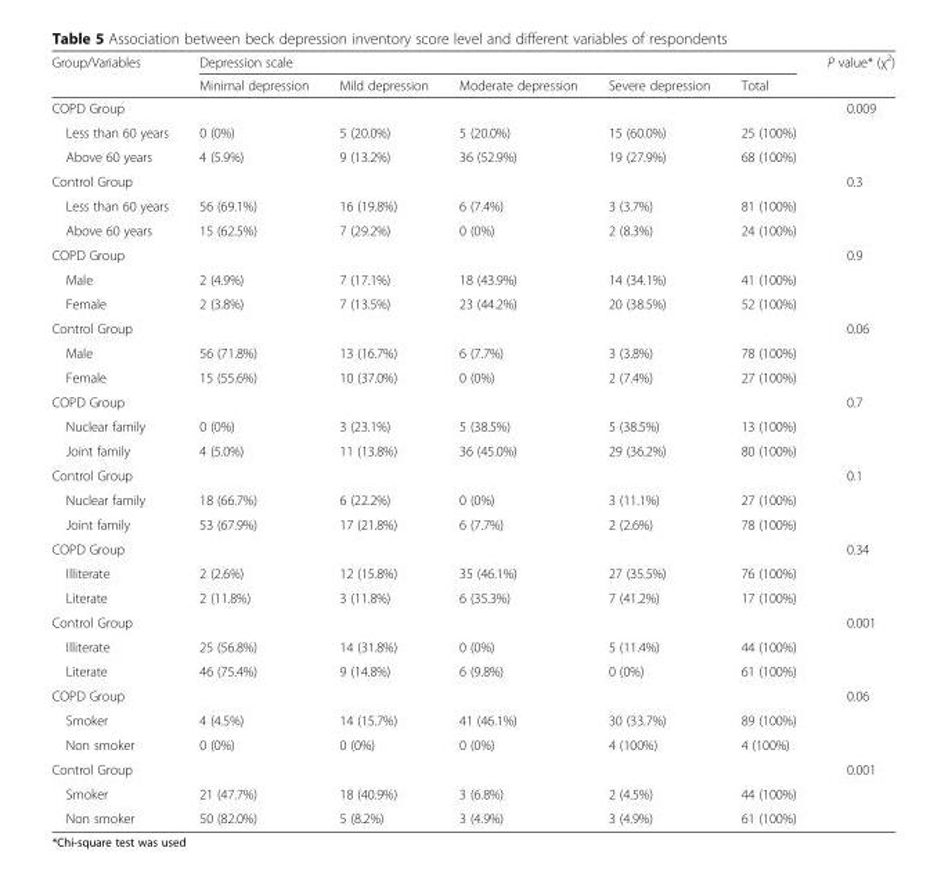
<table><thead><tr><td rowspan="2">Group/Variables</td><td colspan="5">Depression scale</td><td rowspan="2">P value* (χ<sup>2</sup>)</td></tr><tr><td>Minimal depression</td><td>Mild depression</td><td>Moderate depression</td><td>Severe depression</td><td>Total</td></tr></thead><tbody><tr><td colspan="6">COPD Group</td><td rowspan="3">0.009</td></tr><tr><td>Less than 60 years</td><td>0 (0%)</td><td>5 (20.0%)</td><td>5 (20.0%)</td><td>15 (60.0%)</td><td>25 (100%)</td></tr><tr><td>Above 60 years</td><td>4 (5.9%)</td><td>9 (13.2%)</td><td>36 (52.9%)</td><td>19 (27.9%)</td><td>68 (100%)</td></tr><tr><td colspan="6">Control Group</td><td rowspan="3">0.3</td></tr><tr><td>Less than 60 years</td><td>56 (69.1%)</td><td>16 (19.8%)</td><td>6 (7.4%)</td><td>3 (3.7%)</td><td>81 (100%)</td></tr><tr><td>Above 60 years</td><td>15 (62.5%)</td><td>7 (29.2%)</td><td>0 (0%)</td><td>2 (8.3%)</td><td>24 (100%)</td></tr><tr><td colspan="6">COPD Group</td><td rowspan="3">0.9</td></tr><tr><td>Male</td><td>2 (4.9%)</td><td>7 (17.1%)</td><td>18 (43.9%)</td><td>14 (34.1%)</td><td>41 (100%)</td></tr><tr><td>Female</td><td>2 (3.8%)</td><td>7 (13.5%)</td><td>23 (44.2%)</td><td>20 (38.5%)</td><td>52 (100%)</td></tr><tr><td colspan="6">Control Group</td><td rowspan="3">0.06</td></tr><tr><td>Male</td><td>56 (71.8%)</td><td>13 (16.7%)</td><td>6 (7.7%)</td><td>3 (3.8%)</td><td>78 (100%)</td></tr><tr><td>Female</td><td>15 (55.6%)</td><td>10 (37.0%)</td><td>0 (0%)</td><td>2 (7.4%)</td><td>27 (100%)</td></tr><tr><td colspan="6">COPD Group</td><td rowspan="3">0.7</td></tr><tr><td>Nuclear family</td><td>0 (0%)</td><td>3 (23.1%)</td><td>5 (38.5%)</td><td>5 (38.5%)</td><td>13 (100%)</td></tr><tr><td>Joint family</td><td>4 (5.0%)</td><td>11 (13.8%)</td><td>36 (45.0%)</td><td>29 (36.2%)</td><td>80 (100%)</td></tr><tr><td colspan="6">Control Group</td><td rowspan="3">0.1</td></tr><tr><td>Nuclear family</td><td>18 (66.7%)</td><td>6 (22.2%)</td><td>0 (0%)</td><td>3 (11.1%)</td><td>27 (100%)</td></tr><tr><td>Joint family</td><td>53 (67.9%)</td><td>17 (21.8%)</td><td>6 (7.7%)</td><td>2 (2.6%)</td><td>78 (100%)</td></tr><tr><td colspan="6">COPD Group</td><td rowspan="3">0.34</td></tr><tr><td>Illiterate</td><td>2 (2.6%)</td><td>12 (15.8%)</td><td>35 (46.1%)</td><td>27 (35.5%)</td><td>76 (100%)</td></tr><tr><td>Literate</td><td>2 (11.8%)</td><td>3 (11.8%)</td><td>6 (35.3%)</td><td>7 (41.2%)</td><td>17 (100%)</td></tr><tr><td colspan="6">Control Group</td><td rowspan="3">0.001</td></tr><tr><td>Illiterate</td><td>25 (56.8%)</td><td>14 (31.8%)</td><td>0 (0%)</td><td>5 (11.4%)</td><td>44 (100%)</td></tr><tr><td>Literate</td><td>46 (75.4%)</td><td>9 (14.8%)</td><td>6 (9.8%)</td><td>0 (0%)</td><td>61 (100%)</td></tr><tr><td colspan="6">COPD Group</td><td rowspan="3">0.06</td></tr><tr><td>Smoker</td><td>4 (4.5%)</td><td>14 (15.7%)</td><td>41 (46.1%)</td><td>30 (33.7%)</td><td>89 (100%)</td></tr><tr><td>Non smoker</td><td>0 (0%)</td><td>0 (0%)</td><td>0 (0%)</td><td>4 (100%)</td><td>4 (100%)</td></tr><tr><td colspan="6">Control Group</td><td rowspan="3">0.001</td></tr><tr><td>Smoker</td><td>21 (47.7%)</td><td>18 (40.9%)</td><td>3 (6.8%)</td><td>2 (4.5%)</td><td>44 (100%)</td></tr><tr><td>Non smoker</td><td>50 (82.0%)</td><td>5 (8.2%)</td><td>3 (4.9%)</td><td>3 (4.9%)</td><td>61 (100%)</td></tr></tbody></table>